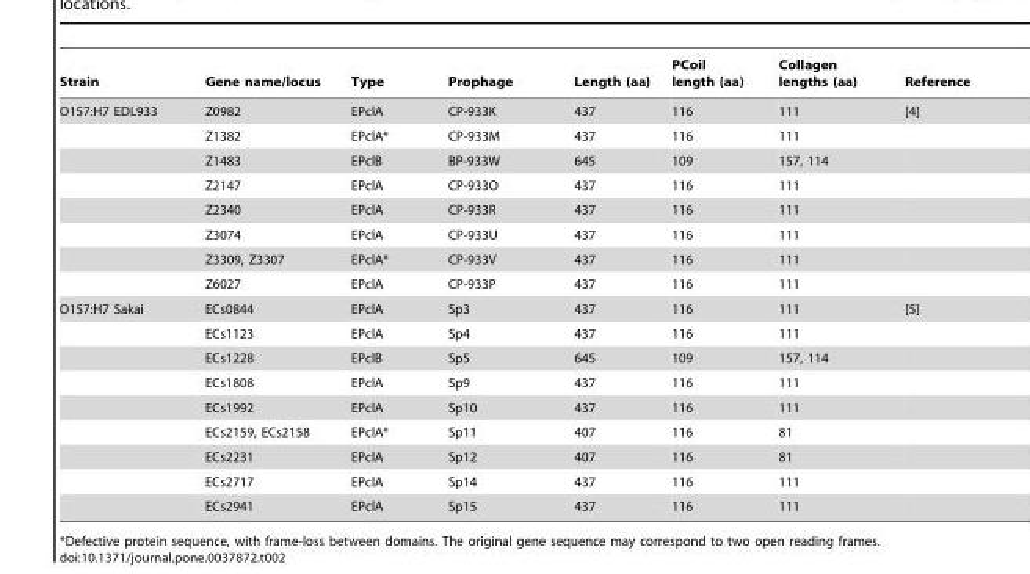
<table><thead><tr><td>Strain</td><td>Gene name/locus</td><td>Type</td><td>Prophage</td><td>Length (aa)</td><td>PCoil length (aa)</td><td>Collagen lengths (aa)</td><td>Reference</td></tr></thead><tbody><tr><td rowspan="8">O157:H7 EDL933</td><td>Z0982</td><td>EPclA</td><td>CP-933K</td><td>437</td><td>116</td><td>111</td><td>[4]</td></tr><tr><td>Z1382</td><td>EPclA*</td><td>CP-933M</td><td>437</td><td>116</td><td>111</td><td></td></tr><tr><td>Z1483</td><td>EPclB</td><td>BP-933W</td><td>645</td><td>109</td><td>157, 114</td><td></td></tr><tr><td>Z2147</td><td>EPclA</td><td>CP-933O</td><td>437</td><td>116</td><td>111</td><td></td></tr><tr><td>Z2340</td><td>EPclA</td><td>CP-933R</td><td>437</td><td>116</td><td>111</td><td></td></tr><tr><td>Z3074</td><td>EPclA</td><td>CP-933U</td><td>437</td><td>116</td><td>111</td><td></td></tr><tr><td>Z3309, Z3307</td><td>EPclA*</td><td>CP-933V</td><td>437</td><td>116</td><td>111</td><td></td></tr><tr><td>Z6027</td><td>EPclA</td><td>CP-933P</td><td>437</td><td>116</td><td>111</td><td></td></tr><tr><td rowspan="9">O157:H7 Sakai</td><td>ECs0844</td><td>EPclA</td><td>Sp3</td><td>437</td><td>116</td><td>111</td><td>[5]</td></tr><tr><td>ECs1123</td><td>EPclA</td><td>Sp4</td><td>437</td><td>116</td><td>111</td><td></td></tr><tr><td>ECs1228</td><td>EPclB</td><td>Sp5</td><td>645</td><td>109</td><td>157, 114</td><td></td></tr><tr><td>ECs1808</td><td>EPclA</td><td>Sp9</td><td>437</td><td>116</td><td>111</td><td></td></tr><tr><td>ECs1992</td><td>EPclA</td><td>Sp10</td><td>437</td><td>116</td><td>111</td><td></td></tr><tr><td>ECs2159, ECs2158</td><td>EPclA*</td><td>Sp11</td><td>407</td><td>116</td><td>81</td><td></td></tr><tr><td>ECs2231</td><td>EPclA</td><td>Sp12</td><td>407</td><td>116</td><td>81</td><td></td></tr><tr><td>ECs2717</td><td>EPclA</td><td>Sp14</td><td>437</td><td>116</td><td>111</td><td></td></tr><tr><td>ECs2941</td><td>EPclA</td><td>Sp15</td><td>437</td><td>116</td><td>111</td><td></td></tr></tbody></table>